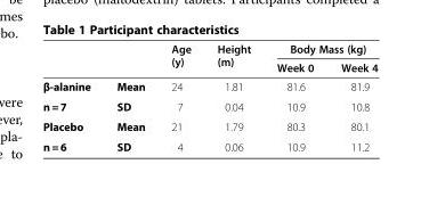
<table><thead><tr><td rowspan="2"></td><td rowspan="2"></td><td rowspan="2">Age (y)</td><td rowspan="2">Height (m)</td><td colspan="2">Body Mass (kg)</td></tr><tr><td>Week 0</td><td>Week 4</td></tr></thead><tbody><tr><td>β-alanine</td><td>Mean</td><td>24</td><td>1.81</td><td>81.6</td><td>81.9</td></tr><tr><td>n = 7</td><td>SD</td><td>7</td><td>0.04</td><td>10.9</td><td>10.8</td></tr><tr><td>Placebo</td><td>Mean</td><td>21</td><td>1.79</td><td>80.3</td><td>80.1</td></tr><tr><td>n = 6</td><td>SD</td><td>4</td><td>0.06</td><td>10.9</td><td>11.2</td></tr></tbody></table>